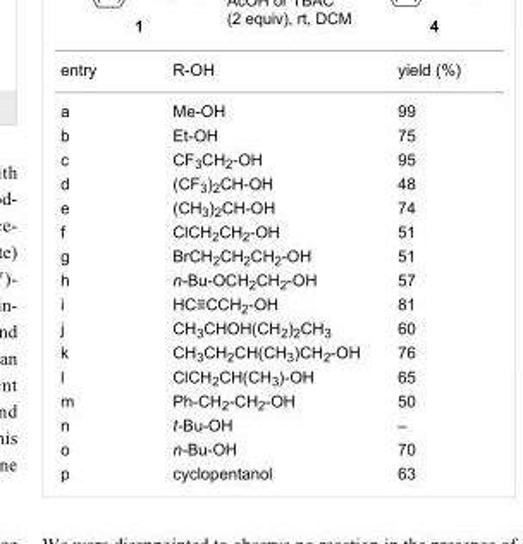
<table><tbody><tr><td>entry</td><td>R-OH</td><td>yield (%)</td></tr><tr><td>a</td><td>Me-OH</td><td>99</td></tr><tr><td>b</td><td>Et-OH</td><td>75</td></tr><tr><td>c</td><td>CF<sub>3</sub>CH<sub>2</sub>-OH</td><td>95</td></tr><tr><td>d</td><td>(CF<sub>3</sub>)<sub>2</sub>CH-OH</td><td>48</td></tr><tr><td>e</td><td>(CH<sub>3</sub>)<sub>2</sub>CH-OH</td><td>74</td></tr><tr><td>f</td><td>ClCH<sub>2</sub>CH<sub>2</sub>-OH</td><td>51</td></tr><tr><td>g</td><td>BrCH<sub>2</sub>CH<sub>2</sub>CH<sub>2</sub>-OH</td><td>51</td></tr><tr><td>h</td><td>n-Bu-OCH<sub>2</sub>CH<sub>2</sub>-OH</td><td>57</td></tr><tr><td>i</td><td>HC≡CCH<sub>2</sub>-OH</td><td>81</td></tr><tr><td>j</td><td>CH<sub>3</sub>CHOH(CH<sub>2</sub>)<sub>2</sub>CH<sub>3</sub></td><td>60</td></tr><tr><td>k</td><td>CH<sub>3</sub>CH<sub>2</sub>CH(CH<sub>3</sub>)CH<sub>2</sub>-OH</td><td>76</td></tr><tr><td>l</td><td>ClCH<sub>2</sub>CH(CH<sub>3</sub>)-OH</td><td>65</td></tr><tr><td>m</td><td>Ph-CH<sub>2</sub>-CH<sub>2</sub>-OH</td><td>50</td></tr><tr><td>n</td><td>t-Bu-OH</td><td>–</td></tr><tr><td>o</td><td>n-Bu-OH</td><td>70</td></tr><tr><td>p</td><td>cyclopentanol</td><td>63</td></tr></tbody></table>